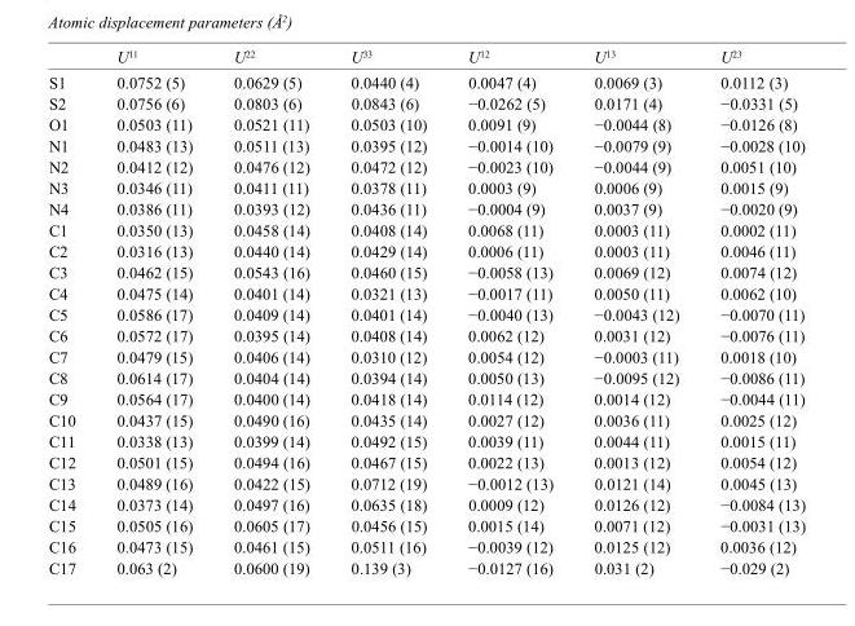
<table><thead><tr><td></td><td>U<sup>11</sup></td><td>U<sup>22</sup></td><td>U<sup>33</sup></td><td>U<sup>12</sup></td><td>U<sup>13</sup></td><td>U<sup>23</sup></td></tr></thead><tbody><tr><td>S1</td><td>0.0752 (5)</td><td>0.0629 (5)</td><td>0.0440 (4)</td><td>0.0047 (4)</td><td>0.0069 (3)</td><td>0.0112 (3)</td></tr><tr><td>S2</td><td>0.0756 (6)</td><td>0.0803 (6)</td><td>0.0843 (6)</td><td>−0.0262 (5)</td><td>0.0171 (4)</td><td>−0.0331 (5)</td></tr><tr><td>O1</td><td>0.0503 (11)</td><td>0.0521 (11)</td><td>0.0503 (10)</td><td>0.0091 (9)</td><td>−0.0044 (8)</td><td>−0.0126 (8)</td></tr><tr><td>N1</td><td>0.0483 (13)</td><td>0.0511 (13)</td><td>0.0395 (12)</td><td>−0.0014 (10)</td><td>−0.0079 (9)</td><td>−0.0028 (10)</td></tr><tr><td>N2</td><td>0.0412 (12)</td><td>0.0476 (12)</td><td>0.0472 (12)</td><td>−0.0023 (10)</td><td>−0.0044 (9)</td><td>0.0051 (10)</td></tr><tr><td>N3</td><td>0.0346 (11)</td><td>0.0411 (11)</td><td>0.0378 (11)</td><td>0.0003 (9)</td><td>0.0006 (9)</td><td>0.0015 (9)</td></tr><tr><td>N4</td><td>0.0386 (11)</td><td>0.0393 (12)</td><td>0.0436 (11)</td><td>−0.0004 (9)</td><td>0.0037 (9)</td><td>−0.0020 (9)</td></tr><tr><td>C1</td><td>0.0350 (13)</td><td>0.0458 (14)</td><td>0.0408 (14)</td><td>0.0068 (11)</td><td>0.0003 (11)</td><td>0.0002 (11)</td></tr><tr><td>C2</td><td>0.0316 (13)</td><td>0.0440 (14)</td><td>0.0429 (14)</td><td>0.0006 (11)</td><td>0.0003 (11)</td><td>0.0046 (11)</td></tr><tr><td>C3</td><td>0.0462 (15)</td><td>0.0543 (16)</td><td>0.0460 (15)</td><td>−0.0058 (13)</td><td>0.0069 (12)</td><td>0.0074 (12)</td></tr><tr><td>C4</td><td>0.0475 (14)</td><td>0.0401 (14)</td><td>0.0321 (13)</td><td>−0.0017 (11)</td><td>0.0050 (11)</td><td>0.0062 (10)</td></tr><tr><td>C5</td><td>0.0586 (17)</td><td>0.0409 (14)</td><td>0.0401 (14)</td><td>−0.0040 (13)</td><td>−0.0043 (12)</td><td>−0.0070 (11)</td></tr><tr><td>C6</td><td>0.0572 (17)</td><td>0.0395 (14)</td><td>0.0408 (14)</td><td>0.0062 (12)</td><td>0.0031 (12)</td><td>−0.0076 (11)</td></tr><tr><td>C7</td><td>0.0479 (15)</td><td>0.0406 (14)</td><td>0.0310 (12)</td><td>0.0054 (12)</td><td>−0.0003 (11)</td><td>0.0018 (10)</td></tr><tr><td>C8</td><td>0.0614 (17)</td><td>0.0404 (14)</td><td>0.0394 (14)</td><td>0.0050 (13)</td><td>−0.0095 (12)</td><td>−0.0086 (11)</td></tr><tr><td>C9</td><td>0.0564 (17)</td><td>0.0400 (14)</td><td>0.0418 (14)</td><td>0.0114 (12)</td><td>0.0014 (12)</td><td>−0.0044 (11)</td></tr><tr><td>C10</td><td>0.0437 (15)</td><td>0.0490 (16)</td><td>0.0435 (14)</td><td>0.0027 (12)</td><td>0.0036 (11)</td><td>0.0025 (12)</td></tr><tr><td>C11</td><td>0.0338 (13)</td><td>0.0399 (14)</td><td>0.0492 (15)</td><td>0.0039 (11)</td><td>0.0044 (11)</td><td>0.0015 (11)</td></tr><tr><td>C12</td><td>0.0501 (15)</td><td>0.0494 (16)</td><td>0.0467 (15)</td><td>0.0022 (13)</td><td>0.0013 (12)</td><td>0.0054 (12)</td></tr><tr><td>C13</td><td>0.0489 (16)</td><td>0.0422 (15)</td><td>0.0712 (19)</td><td>−0.0012 (13)</td><td>0.0121 (14)</td><td>0.0045 (13)</td></tr><tr><td>C14</td><td>0.0373 (14)</td><td>0.0497 (16)</td><td>0.0635 (18)</td><td>0.0009 (12)</td><td>0.0126 (12)</td><td>−0.0084 (13)</td></tr><tr><td>C15</td><td>0.0505 (16)</td><td>0.0605 (17)</td><td>0.0456 (15)</td><td>0.0015 (14)</td><td>0.0071 (12)</td><td>−0.0031 (13)</td></tr><tr><td>C16</td><td>0.0473 (15)</td><td>0.0461 (15)</td><td>0.0511 (16)</td><td>−0.0039 (12)</td><td>0.0125 (12)</td><td>0.0036 (12)</td></tr><tr><td>C17</td><td>0.063 (2)</td><td>0.0600 (19)</td><td>0.139 (3)</td><td>−0.0127 (16)</td><td>0.031 (2)</td><td>−0.029 (2)</td></tr></tbody></table>